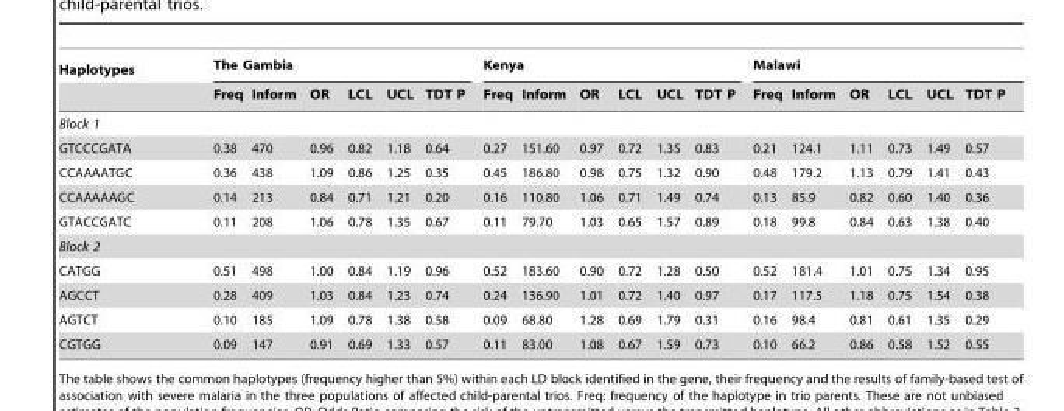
<table><thead><tr><td rowspan="2">Haplotypes</td><td colspan="6">The Gambia</td><td colspan="6">Kenya</td><td colspan="6">Malawi</td></tr><tr><td>Freq</td><td>Inform</td><td>OR</td><td>LCL</td><td>UCL</td><td>TDT P</td><td>Freq</td><td>Inform</td><td>OR</td><td>LCL</td><td>UCL</td><td>TDT P</td><td>Freq</td><td>Inform</td><td>OR</td><td>LCL</td><td>UCL</td><td>TDT P</td></tr></thead><tbody><tr><td colspan="19">Block 1</td></tr><tr><td>GTCCCGATA</td><td>0.38</td><td>470</td><td>0.96</td><td>0.82</td><td>1.18</td><td>0.64</td><td>0.27</td><td>151.60</td><td>0.97</td><td>0.72</td><td>1.35</td><td>0.83</td><td>0.21</td><td>124.1</td><td>1.11</td><td>0.73</td><td>1.49</td><td>0.57</td></tr><tr><td>CCAAAATGC</td><td>0.36</td><td>438</td><td>1.09</td><td>0.86</td><td>1.25</td><td>0.35</td><td>0.45</td><td>186.80</td><td>0.98</td><td>0.75</td><td>1.32</td><td>0.90</td><td>0.48</td><td>179.2</td><td>1.13</td><td>0.79</td><td>1.41</td><td>0.43</td></tr><tr><td>CCAAAAAGC</td><td>0.14</td><td>213</td><td>0.84</td><td>0.71</td><td>1.21</td><td>0.20</td><td>0.16</td><td>110.80</td><td>1.06</td><td>0.71</td><td>1.49</td><td>0.74</td><td>0.13</td><td>85.9</td><td>0.82</td><td>0.60</td><td>1.40</td><td>0.36</td></tr><tr><td>GTACCGATC</td><td>0.11</td><td>208</td><td>1.06</td><td>0.78</td><td>1.35</td><td>0.67</td><td>0.11</td><td>79.70</td><td>1.03</td><td>0.65</td><td>1.57</td><td>0.89</td><td>0.18</td><td>99.8</td><td>0.84</td><td>0.63</td><td>1.38</td><td>0.40</td></tr><tr><td colspan="19">Block 2</td></tr><tr><td>CATGG</td><td>0.51</td><td>498</td><td>1.00</td><td>0.84</td><td>1.19</td><td>0.96</td><td>0.52</td><td>183.60</td><td>0.90</td><td>0.72</td><td>1.28</td><td>0.50</td><td>0.52</td><td>181.4</td><td>1.01</td><td>0.75</td><td>1.34</td><td>0.95</td></tr><tr><td>AGCCT</td><td>0.28</td><td>409</td><td>1.03</td><td>0.84</td><td>1.23</td><td>0.74</td><td>0.24</td><td>136.90</td><td>1.01</td><td>0.72</td><td>1.40</td><td>0.97</td><td>0.17</td><td>117.5</td><td>1.18</td><td>0.75</td><td>1.54</td><td>0.38</td></tr><tr><td>AGTCT</td><td>0.10</td><td>185</td><td>1.09</td><td>0.78</td><td>1.38</td><td>0.58</td><td>0.09</td><td>68.80</td><td>1.28</td><td>0.69</td><td>1.79</td><td>0.31</td><td>0.16</td><td>98.4</td><td>0.81</td><td>0.61</td><td>1.35</td><td>0.29</td></tr><tr><td>CGTGG</td><td>0.09</td><td>147</td><td>0.91</td><td>0.69</td><td>1.33</td><td>0.57</td><td>0.11</td><td>83.00</td><td>1.08</td><td>0.67</td><td>1.59</td><td>0.73</td><td>0.10</td><td>66.2</td><td>0.86</td><td>0.58</td><td>1.52</td><td>0.55</td></tr></tbody></table>